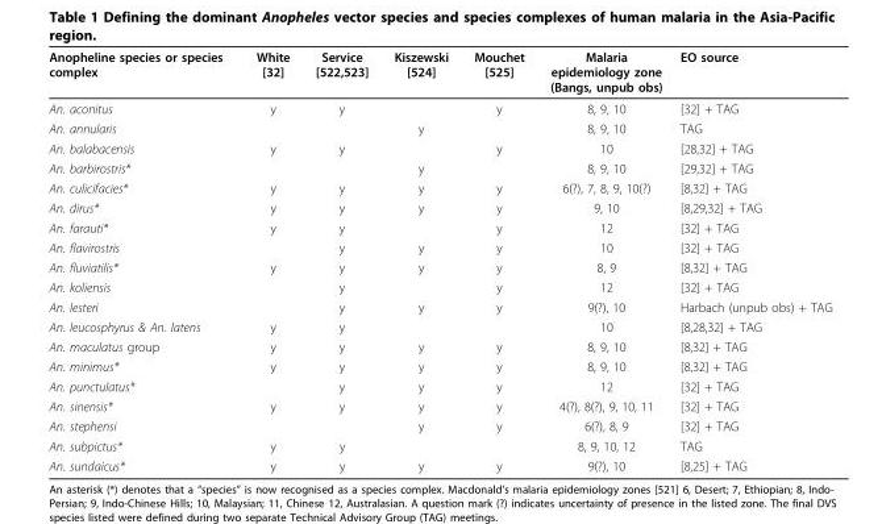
<table><thead><tr><td>Anopheline species or species complex</td><td>White [32]</td><td>Service [522,523]</td><td>Kiszewski [524]</td><td>Mouchet [525]</td><td>Malaria epidemiology zone (Bangs, unpub obs)</td><td>EO source</td></tr></thead><tbody><tr><td>An. aconitus</td><td>y</td><td>y</td><td></td><td>y</td><td>8, 9, 10</td><td>[32] + TAG</td></tr><tr><td>An. annularis</td><td></td><td></td><td>y</td><td></td><td>8, 9, 10</td><td>TAG</td></tr><tr><td>An. balabacensis</td><td>y</td><td>y</td><td></td><td>y</td><td>10</td><td>[28,32] + TAG</td></tr><tr><td>An. barbirostris*</td><td></td><td></td><td>y</td><td></td><td>8, 9, 10</td><td>[29,32] + TAG</td></tr><tr><td>An. culicifacies*</td><td>y</td><td>y</td><td>y</td><td>y</td><td>6(?), 7, 8, 9, 10(?)</td><td>[8,32] + TAG</td></tr><tr><td>An. dirus*</td><td>y</td><td>y</td><td>y</td><td>y</td><td>9, 10</td><td>[8,29,32] + TAG</td></tr><tr><td>An. farauti*</td><td>y</td><td>y</td><td></td><td>y</td><td>12</td><td>[32] + TAG</td></tr><tr><td>An. flavirostris</td><td></td><td>y</td><td>y</td><td>y</td><td>10</td><td>[32] + TAG</td></tr><tr><td>An. fluviatilis*</td><td>y</td><td>y</td><td>y</td><td>y</td><td>8, 9</td><td>[8,32] + TAG</td></tr><tr><td>An. koliensis</td><td></td><td>y</td><td></td><td>y</td><td>12</td><td>[32] + TAG</td></tr><tr><td>An. lesteri</td><td></td><td>y</td><td>y</td><td>y</td><td>9(?), 10</td><td>Harbach (unpub obs) + TAG</td></tr><tr><td>An. leucosphyrus &amp; An. latens</td><td>y</td><td>y</td><td></td><td></td><td>10</td><td>[8,28,32] + TAG</td></tr><tr><td>An. maculatus group</td><td>y</td><td>y</td><td>y</td><td>y</td><td>8, 9, 10</td><td>[8,32] + TAG</td></tr><tr><td>An. minimus*</td><td>y</td><td>y</td><td>y</td><td>y</td><td>8, 9, 10</td><td>[8,32] + TAG</td></tr><tr><td>An. punctulatus*</td><td></td><td>y</td><td>y</td><td>y</td><td>12</td><td>[32] + TAG</td></tr><tr><td>An. sinensis*</td><td>y</td><td>y</td><td>y</td><td>y</td><td>4(?), 8(?), 9, 10, 11</td><td>[32] + TAG</td></tr><tr><td>An. stephensi</td><td></td><td></td><td>y</td><td>y</td><td>6(?), 8, 9</td><td>[32] + TAG</td></tr><tr><td>An. subpictus*</td><td>y</td><td>y</td><td></td><td></td><td>8, 9, 10, 12</td><td>TAG</td></tr><tr><td>An. sundaicus*</td><td>y</td><td>y</td><td>y</td><td>y</td><td>9(?), 10</td><td>[8,25] + TAG</td></tr></tbody></table>